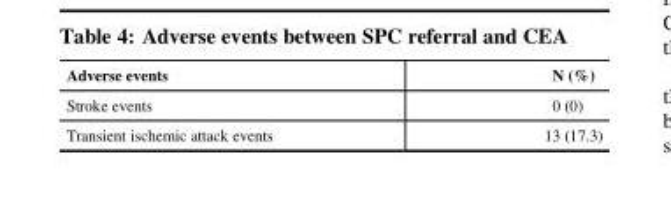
<table><thead><tr><td>Adverse events</td><td>N (%)</td></tr></thead><tbody><tr><td>Stroke events</td><td>0 (0)</td></tr><tr><td>Transient ischemic attack events</td><td>13 (17.3)</td></tr></tbody></table>